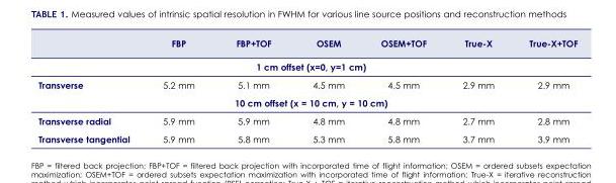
<table><thead><tr><td></td><td>FBP</td><td>FBP+TOF</td><td>OSEM</td><td>OSEM+TOF</td><td>True-X</td><td>True-X+TOF</td></tr></thead><tbody><tr><td colspan="7">1 cm offset (x=0, y=1 cm)</td></tr><tr><td>Transverse</td><td>5.2 mm</td><td>5.1 mm</td><td>4.5 mm</td><td>4.5 mm</td><td>2.9 mm</td><td>2.9 mm</td></tr><tr><td colspan="7">10 cm offset (x = 10 cm, y = 10 cm)</td></tr><tr><td>Transverse radial</td><td>5.9 mm</td><td>5.9 mm</td><td>4.8 mm</td><td>4.8 mm</td><td>2.7 mm</td><td>2.8 mm</td></tr><tr><td>Transverse tangential</td><td>5.9 mm</td><td>5.8 mm</td><td>5.3 mm</td><td>5.8 mm</td><td>3.7 mm</td><td>3.9 mm</td></tr></tbody></table>